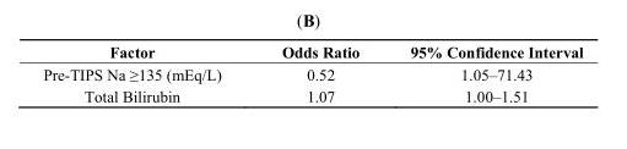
<table><thead><tr><td>Factor</td><td>Odds Ratio</td><td>95% Confidence Interval</td></tr></thead><tbody><tr><td>Pre-TIPS Na ≥135 (mEq/L)</td><td>0.52</td><td>1.05–71.43</td></tr><tr><td>Total Bilirubin</td><td>1.07</td><td>1.00–1.51</td></tr></tbody></table>